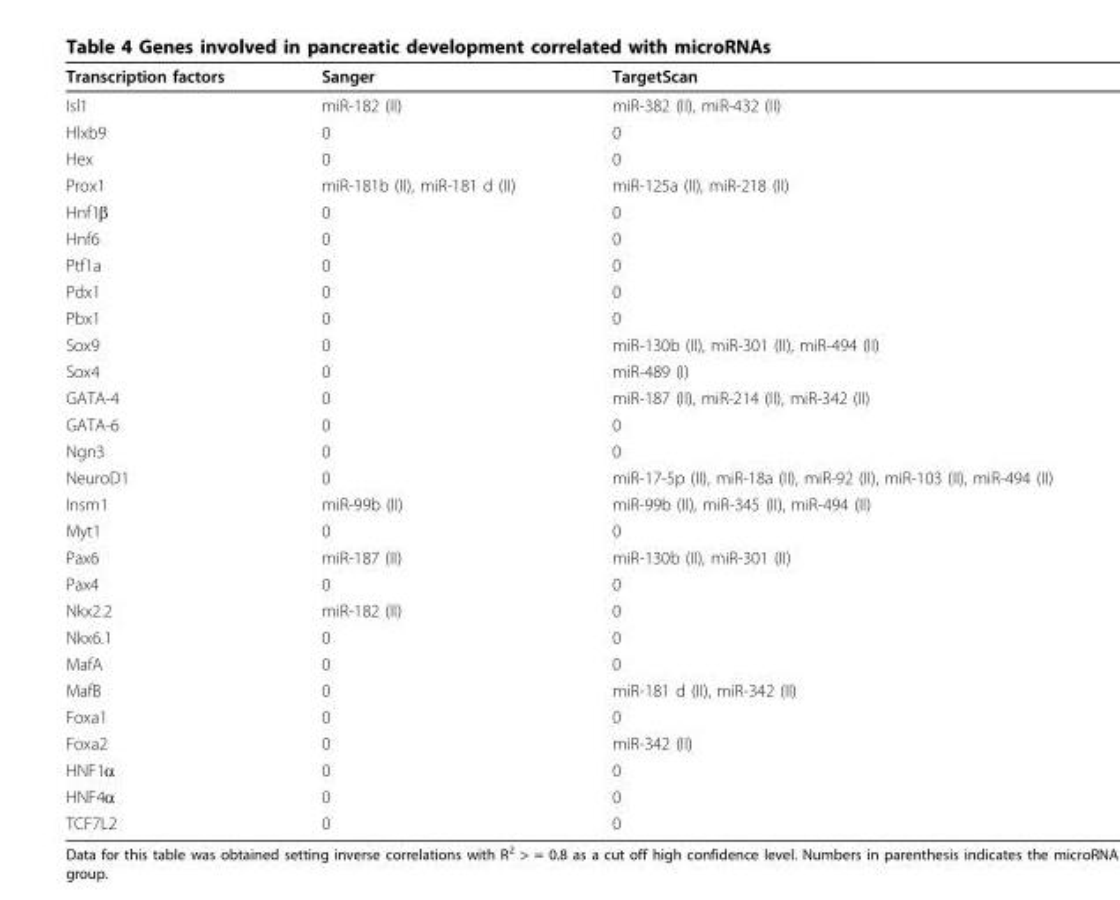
<table><thead><tr><td>Transcription factors</td><td>Sanger</td><td>TargetScan</td></tr></thead><tbody><tr><td>Isl1</td><td>miR-182 (II)</td><td>miR-382 (II), miR-432 (II)</td></tr><tr><td>Hlxb9</td><td>0</td><td>0</td></tr><tr><td>Hex</td><td>0</td><td>0</td></tr><tr><td>Prox1</td><td>miR-181b (II), miR-181 d (II)</td><td>miR-125a (II), miR-218 (II)</td></tr><tr><td>Hnf1β</td><td>0</td><td>0</td></tr><tr><td>Hnf6</td><td>0</td><td>0</td></tr><tr><td>Ptf1a</td><td>0</td><td>0</td></tr><tr><td>Pdx1</td><td>0</td><td>0</td></tr><tr><td>Pbx1</td><td>0</td><td>0</td></tr><tr><td>Sox9</td><td>0</td><td>miR-130b (II), miR-301 (II), miR-494 (II)</td></tr><tr><td>Sox4</td><td>0</td><td>miR-489 (I)</td></tr><tr><td>GATA-4</td><td>0</td><td>miR-187 (II), miR-214 (II), miR-342 (II)</td></tr><tr><td>GATA-6</td><td>0</td><td>0</td></tr><tr><td>Ngn3</td><td>0</td><td>0</td></tr><tr><td>NeuroD1</td><td>0</td><td>miR-17-5p (II), miR-18a (II), miR-92 (II), miR-103 (II), miR-494 (II)</td></tr><tr><td>Insm1</td><td>miR-99b (II)</td><td>miR-99b (II), miR-345 (II), miR-494 (II)</td></tr><tr><td>Myt1</td><td>0</td><td>0</td></tr><tr><td>Pax6</td><td>miR-187 (II)</td><td>miR-130b (II), miR-301 (II)</td></tr><tr><td>Pax4</td><td>0</td><td>0</td></tr><tr><td>Nkx2.2</td><td>miR-182 (II)</td><td>0</td></tr><tr><td>Nkx6.1</td><td>0</td><td>0</td></tr><tr><td>MafA</td><td>0</td><td>0</td></tr><tr><td>MafB</td><td>0</td><td>miR-181 d (II), miR-342 (II)</td></tr><tr><td>Foxa1</td><td>0</td><td>0</td></tr><tr><td>Foxa2</td><td>0</td><td>miR-342 (II)</td></tr><tr><td>HNF1α</td><td>0</td><td>0</td></tr><tr><td>HNF4α</td><td>0</td><td>0</td></tr><tr><td>TCF7L2</td><td>0</td><td>0</td></tr></tbody></table>